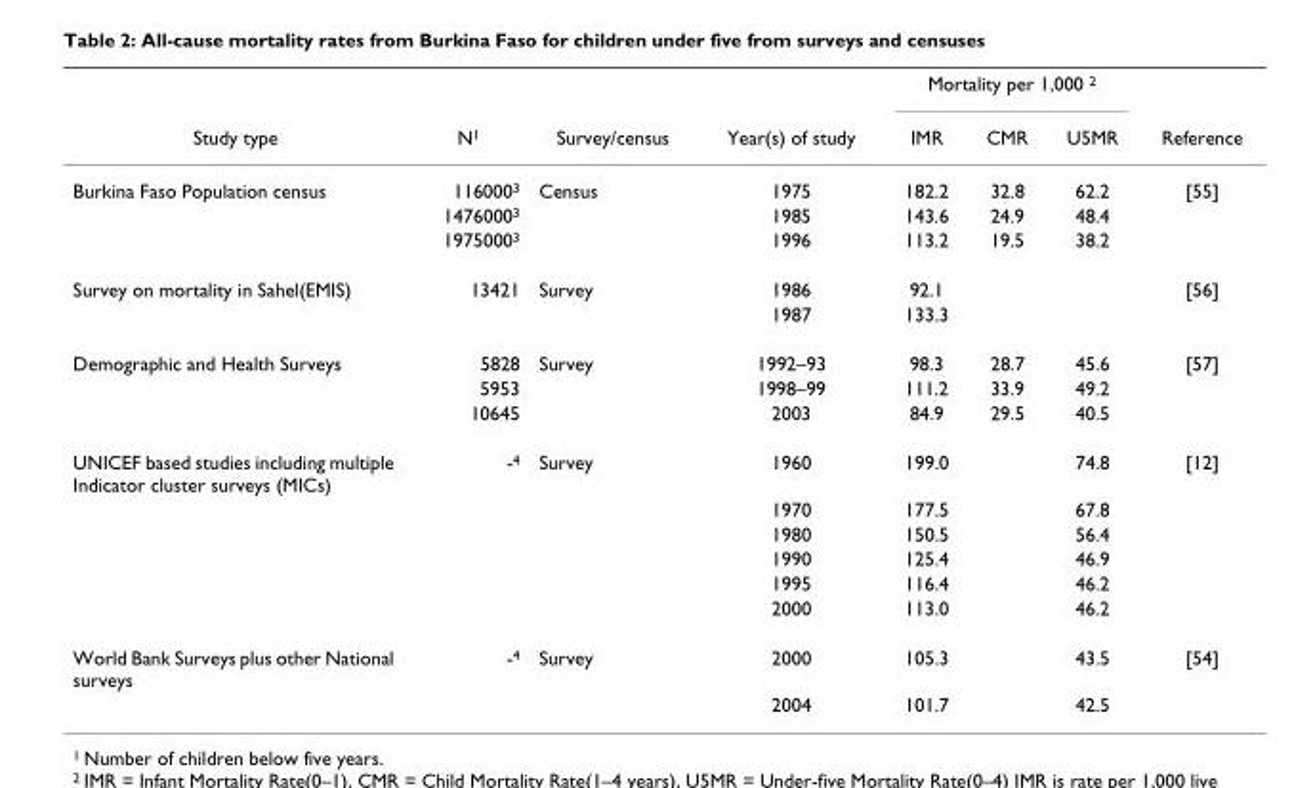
<table><thead><tr><td rowspan="2">Study type</td><td rowspan="2">N<sup>1</sup></td><td rowspan="2">Survey/census</td><td rowspan="2">Year(s) of study</td><td colspan="3">Mortality per 1,000 <sup>2</sup></td><td rowspan="2">Reference</td></tr><tr><td>IMR</td><td>CMR</td><td>U5MR</td></tr></thead><tbody><tr><td rowspan="3">Burkina Faso Population census</td><td>116000<sup>3</sup></td><td>Census</td><td>1975</td><td>182.2</td><td>32.8</td><td>62.2</td><td>[55]</td></tr><tr><td>1476000<sup>3</sup></td><td></td><td>1985</td><td>143.6</td><td>24.9</td><td>48.4</td><td></td></tr><tr><td>1975000<sup>3</sup></td><td></td><td>1996</td><td>113.2</td><td>19.5</td><td>38.2</td><td></td></tr><tr><td rowspan="2">Survey on mortality in Sahel(EMIS)</td><td>13421</td><td>Survey</td><td>1986</td><td>92.1</td><td></td><td></td><td>[56]</td></tr><tr><td></td><td></td><td>1987</td><td>133.3</td><td></td><td></td><td></td></tr><tr><td rowspan="3">Demographic and Health Surveys</td><td>5828</td><td>Survey</td><td>1992–93</td><td>98.3</td><td>28.7</td><td>45.6</td><td>[57]</td></tr><tr><td>5953</td><td></td><td>1998–99</td><td>111.2</td><td>33.9</td><td>49.2</td><td></td></tr><tr><td>10645</td><td></td><td>2003</td><td>84.9</td><td>29.5</td><td>40.5</td><td></td></tr><tr><td rowspan="6">UNICEF based studies including multiple Indicator cluster surveys (MICs)</td><td>-<sup>4</sup></td><td>Survey</td><td>1960</td><td>199.0</td><td></td><td>74.8</td><td>[12]</td></tr><tr><td></td><td></td><td>1970</td><td>177.5</td><td></td><td>67.8</td><td></td></tr><tr><td></td><td></td><td>1980</td><td>150.5</td><td></td><td>56.4</td><td></td></tr><tr><td></td><td></td><td>1990</td><td>125.4</td><td></td><td>46.9</td><td></td></tr><tr><td></td><td></td><td>1995</td><td>116.4</td><td></td><td>46.2</td><td></td></tr><tr><td></td><td></td><td>2000</td><td>113.0</td><td></td><td>46.2</td><td></td></tr><tr><td rowspan="2">World Bank Surveys plus other National surveys</td><td>-<sup>4</sup></td><td>Survey</td><td>2000</td><td>105.3</td><td></td><td>43.5</td><td>[54]</td></tr><tr><td></td><td></td><td>2004</td><td>101.7</td><td></td><td>42.5</td><td></td></tr></tbody></table>